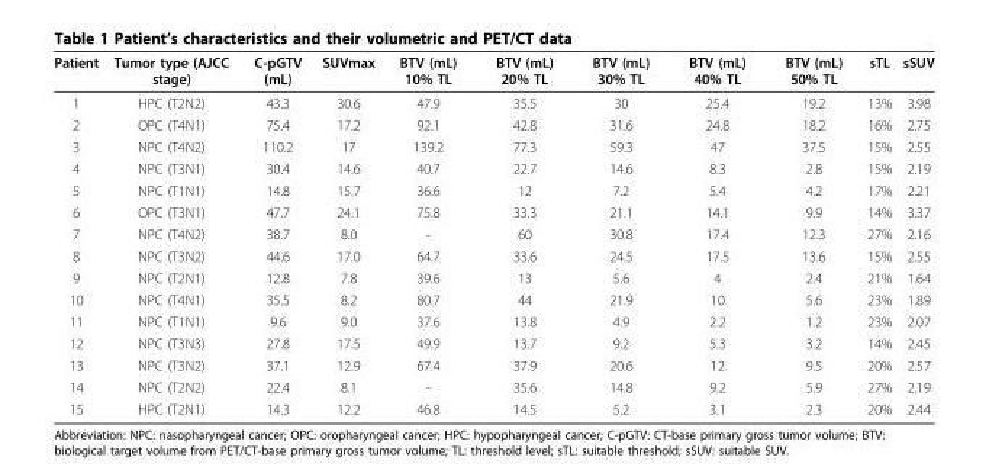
<table><thead><tr><td>Patient</td><td>Tumor type (AJCC stage)</td><td>C-pGTV (mL)</td><td>SUVmax</td><td>BTV (mL) 10% TL</td><td>BTV (mL) 20% TL</td><td>BTV (mL) 30% TL</td><td>BTV (mL) 40% TL</td><td>BTV (mL) 50% TL</td><td>sTL</td><td>sSUV</td></tr></thead><tbody><tr><td>1</td><td>HPC (T2N2)</td><td>43.3</td><td>30.6</td><td>47.9</td><td>35.5</td><td>30</td><td>25.4</td><td>19.2</td><td>13%</td><td>3.98</td></tr><tr><td>2</td><td>OPC (T4N1)</td><td>75.4</td><td>17.2</td><td>92.1</td><td>42.8</td><td>31.6</td><td>24.8</td><td>18.2</td><td>16%</td><td>2.75</td></tr><tr><td>3</td><td>NPC (T4N2)</td><td>110.2</td><td>17</td><td>139.2</td><td>77.3</td><td>59.3</td><td>47</td><td>37.5</td><td>15%</td><td>2.55</td></tr><tr><td>4</td><td>NPC (T3N1)</td><td>30.4</td><td>14.6</td><td>40.7</td><td>22.7</td><td>14.6</td><td>8.3</td><td>2.8</td><td>15%</td><td>2.19</td></tr><tr><td>5</td><td>NPC (T1N1)</td><td>14.8</td><td>15.7</td><td>36.6</td><td>12</td><td>7.2</td><td>5.4</td><td>4.2</td><td>17%</td><td>2.21</td></tr><tr><td>6</td><td>OPC (T3N1)</td><td>47.7</td><td>24.1</td><td>75.8</td><td>33.3</td><td>21.1</td><td>14.1</td><td>9.9</td><td>14%</td><td>3.37</td></tr><tr><td>7</td><td>NPC (T4N2)</td><td>38.7</td><td>8.0</td><td>-</td><td>60</td><td>30.8</td><td>17.4</td><td>12.3</td><td>27%</td><td>2.16</td></tr><tr><td>8</td><td>NPC (T3N2)</td><td>44.6</td><td>17.0</td><td>64.7</td><td>33.6</td><td>24.5</td><td>17.5</td><td>13.6</td><td>15%</td><td>2.55</td></tr><tr><td>9</td><td>NPC (T2N1)</td><td>12.8</td><td>7.8</td><td>39.6</td><td>13</td><td>5.6</td><td>4</td><td>2.4</td><td>21%</td><td>1.64</td></tr><tr><td>10</td><td>NPC (T4N1)</td><td>35.5</td><td>8.2</td><td>80.7</td><td>44</td><td>21.9</td><td>10</td><td>5.6</td><td>23%</td><td>1.89</td></tr><tr><td>11</td><td>NPC (T1N1)</td><td>9.6</td><td>9.0</td><td>37.6</td><td>13.8</td><td>4.9</td><td>2.2</td><td>1.2</td><td>23%</td><td>2.07</td></tr><tr><td>12</td><td>NPC (T3N3)</td><td>27.8</td><td>17.5</td><td>49.9</td><td>13.7</td><td>9.2</td><td>5.3</td><td>3.2</td><td>14%</td><td>2.45</td></tr><tr><td>13</td><td>NPC (T3N2)</td><td>37.1</td><td>12.9</td><td>67.4</td><td>37.9</td><td>20.6</td><td>12</td><td>9.5</td><td>20%</td><td>2.57</td></tr><tr><td>14</td><td>NPC (T2N2)</td><td>22.4</td><td>8.1</td><td>-</td><td>35.6</td><td>14.8</td><td>9.2</td><td>5.9</td><td>27%</td><td>2.19</td></tr><tr><td>15</td><td>HPC (T2N1)</td><td>14.3</td><td>12.2</td><td>46.8</td><td>14.5</td><td>5.2</td><td>3.1</td><td>2.3</td><td>20%</td><td>2.44</td></tr></tbody></table>